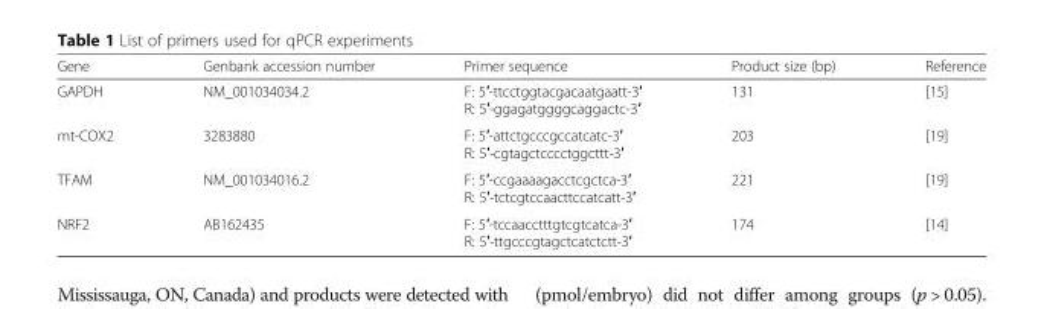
<table><thead><tr><td>Gene</td><td>Genbank accession number</td><td>Primer sequence</td><td>Product size (bp)</td><td>Reference</td></tr></thead><tbody><tr><td>GAPDH</td><td>NM_001034034.2</td><td>F: 5′-ttcctggtacgacaatgaatt-3′ R: 5′-ggagatggggcaggactc-3′</td><td>131</td><td>[15]</td></tr><tr><td>mt-COX2</td><td>3283880</td><td>F: 5′-attctgcccgccatcatc-3′ R: 5′-cgtagctcccctggcttt-3′</td><td>203</td><td>[19]</td></tr><tr><td>TFAM</td><td>NM_001034016.2</td><td>F: 5′-ccgaaaagacctcgctca-3′ R: 5′-tctcgtccaacttccatcatt-3′</td><td>221</td><td>[19]</td></tr><tr><td>NRF2</td><td>AB162435</td><td>F: 5′-tccaacctttgtcgtcatca-3′ R: 5′-ttgcccgtagctcatctctt-3′</td><td>174</td><td>[14]</td></tr></tbody></table>